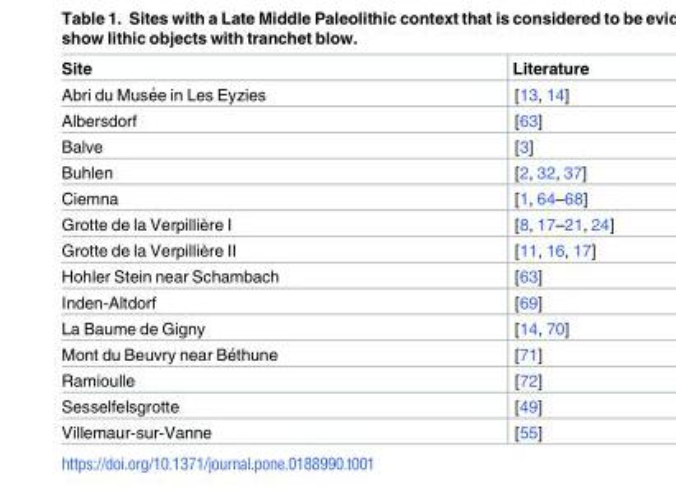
<table><thead><tr><td>Site</td><td>Literature</td></tr></thead><tbody><tr><td>Abri du Muse´e in Les Eyzies</td><td>[13, 14]</td></tr><tr><td>Albersdorf</td><td>[63]</td></tr><tr><td>Balve</td><td>[3]</td></tr><tr><td>Buhlen</td><td>[2, 32, 37]</td></tr><tr><td>Ciemna</td><td>[1, 64–68]</td></tr><tr><td>Grotte de la Verpillière I</td><td>[8, 17–21, 24]</td></tr><tr><td>Grotte de la Verpillière II</td><td>[11, 16, 17]</td></tr><tr><td>Hohler Stein near Schambach</td><td>[63]</td></tr><tr><td>Inden-Altdorf</td><td>[69]</td></tr><tr><td>La Baume de Gigny</td><td>[14, 70]</td></tr><tr><td>Mont du Beuvry near Be´thune</td><td>[71]</td></tr><tr><td>Ramioulle</td><td>[72]</td></tr><tr><td>Sesselfelsgrotte</td><td>[49]</td></tr><tr><td>Villemaur-sur-Vanne</td><td>[55]</td></tr></tbody></table>